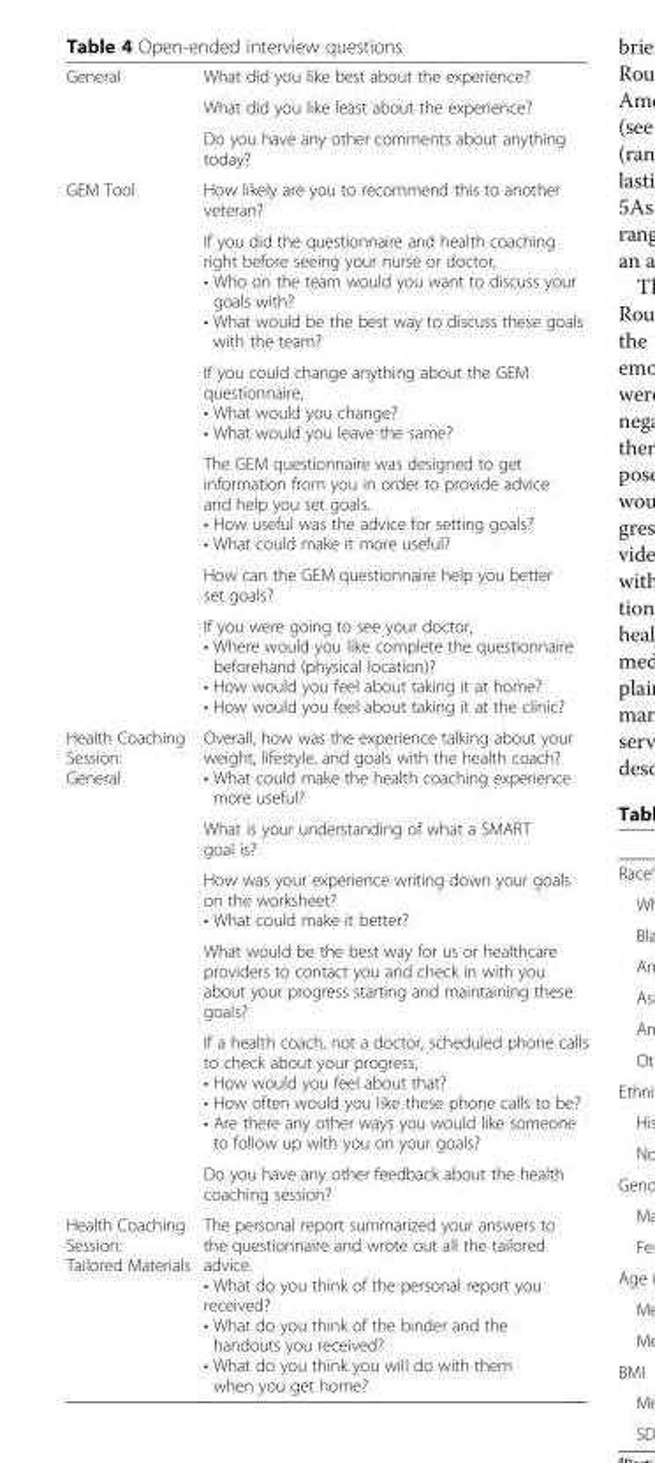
<table><tbody><tr><td rowspan="3">General</td><td>What did you like best about the experience?</td></tr><tr><td>What did you like least about the experience?</td></tr><tr><td>Do you have any other comments about anything today?</td></tr><tr><td rowspan="6">GEM Tool</td><td>How likely are you to recommend this to another veteran?</td></tr><tr><td>If you did the questionnaire and health coaching right before seeing your nurse or doctor, • Who on the team would you want to discuss your goals with? • What would be the best way to discuss these goals with the team?</td></tr><tr><td>If you could change anything about the GEM questionnaire, • What would you change? • What would you leave the same?</td></tr><tr><td>The GEM questionnaire was designed to get information from you in order to provide advice and help you set goals. • How useful was the advice for setting goals? • What could make it more useful?</td></tr><tr><td>How can the GEM questionnaire help you better set goals?</td></tr><tr><td>If you were going to see your doctor, • Where would you like complete the questionnaire beforehand (physical location)? • How would you feel about taking it at home? • How would you feel about taking it at the clinic?</td></tr><tr><td rowspan="6">Health Coaching Session: General</td><td>Overall, how was the experience talking about your weight, lifestyle, and goals with the health coach? • What could make the health coaching experience more useful?</td></tr><tr><td>What is your understanding of what a SMART goal is?</td></tr><tr><td>How was your experience writing down your goals on the worksheet? • What could make it better?</td></tr><tr><td>What would be the best way for us or healthcare providers to contact you and check in with you about your progress starting and maintaining these goals?</td></tr><tr><td>If a health coach, not a doctor, scheduled phone calls to check about your progress, • How would you feel about that? • How often would you like these phone calls to be? • Are there any other ways you would like someone to follow up with you on your goals?</td></tr><tr><td>Do you have any other feedback about the health coaching session?</td></tr><tr><td>Health Coaching Session: Tailored Materials</td><td>The personal report summarized your answers to the questionnaire and wrote out all the tailored advice. • What do you think of the personal report you received? • What do you think of the binder and the handouts you received? • What do you think you will do with them when you get home?</td></tr></tbody></table>